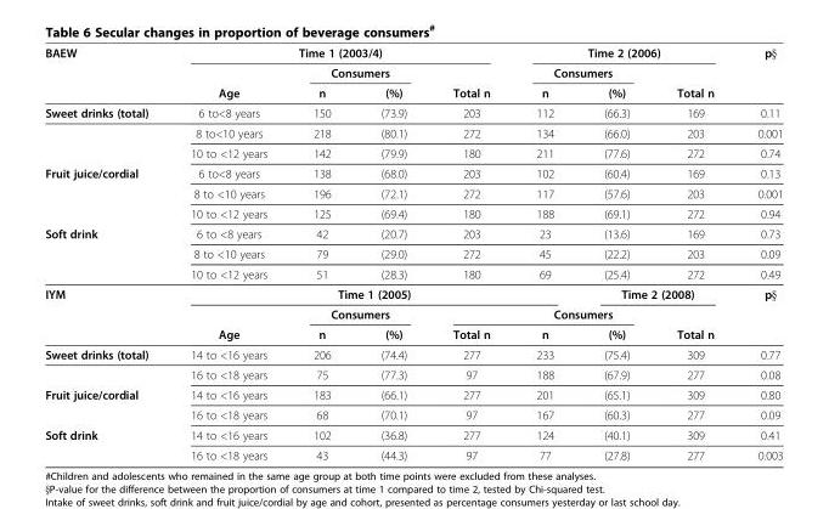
<table><thead><tr><td rowspan="3">BAEW</td><td colspan="4">Time 1 (2003/4)</td><td colspan="3">Time 2 (2006)</td><td rowspan="3">p§</td></tr><tr><td rowspan="2">Age</td><td colspan="2">Consumers</td><td rowspan="2">Total n</td><td colspan="2">Consumers</td><td rowspan="2">Total n</td></tr><tr><td>n</td><td>(%)</td><td>n</td><td>(%)</td></tr></thead><tbody><tr><td rowspan="3">Sweet drinks (total)</td><td>6 to&lt;8 years</td><td>150</td><td>(73.9)</td><td>203</td><td>112</td><td>(66.3)</td><td>169</td><td>0.11</td></tr><tr><td>8 to&lt;10 years</td><td>218</td><td>(80.1)</td><td>272</td><td>134</td><td>(66.0)</td><td>203</td><td>0.001</td></tr><tr><td>10 to &lt;12 years</td><td>142</td><td>(79.9)</td><td>180</td><td>211</td><td>(77.6)</td><td>272</td><td>0.74</td></tr><tr><td rowspan="3">Fruit juice/cordial</td><td>6 to&lt;8 years</td><td>138</td><td>(68.0)</td><td>203</td><td>102</td><td>(60.4)</td><td>169</td><td>0.13</td></tr><tr><td>8 to &lt;10 years</td><td>196</td><td>(72.1)</td><td>272</td><td>117</td><td>(57.6)</td><td>203</td><td>0.001</td></tr><tr><td>10 to &lt;12 years</td><td>125</td><td>(69.4)</td><td>180</td><td>188</td><td>(69.1)</td><td>272</td><td>0.94</td></tr><tr><td rowspan="3">Soft drink</td><td>6 to &lt;8 years</td><td>42</td><td>(20.7)</td><td>203</td><td>23</td><td>(13.6)</td><td>169</td><td>0.73</td></tr><tr><td>8 to &lt;10 years</td><td>79</td><td>(29.0)</td><td>272</td><td>45</td><td>(22.2)</td><td>203</td><td>0.09</td></tr><tr><td>10 to &lt;12 years</td><td>51</td><td>(28.3)</td><td>180</td><td>69</td><td>(25.4)</td><td>272</td><td>0.49</td></tr><tr><td rowspan="3">IYM</td><td colspan="5">Time 1 (2005)</td><td colspan="2">Time 2 (2008)</td><td>p§</td></tr><tr><td></td><td colspan="2">Consumers</td><td></td><td colspan="2">Consumers</td><td></td><td></td></tr><tr><td>Age</td><td>n</td><td>(%)</td><td>Total n</td><td>n</td><td>(%)</td><td>Total n</td><td></td></tr><tr><td rowspan="2">Sweet drinks (total)</td><td>14 to &lt;16 years</td><td>206</td><td>(74.4)</td><td>277</td><td>233</td><td>(75.4)</td><td>309</td><td>0.77</td></tr><tr><td>16 to &lt;18 years</td><td>75</td><td>(77.3)</td><td>97</td><td>188</td><td>(67.9)</td><td>277</td><td>0.08</td></tr><tr><td rowspan="2">Fruit juice/cordial</td><td>14 to &lt;16 years</td><td>183</td><td>(66.1)</td><td>277</td><td>201</td><td>(65.1)</td><td>309</td><td>0.80</td></tr><tr><td>16 to &lt;18 years</td><td>68</td><td>(70.1)</td><td>97</td><td>167</td><td>(60.3)</td><td>277</td><td>0.09</td></tr><tr><td rowspan="2">Soft drink</td><td>14 to &lt;16 years</td><td>102</td><td>(36.8)</td><td>277</td><td>124</td><td>(40.1)</td><td>309</td><td>0.41</td></tr><tr><td>16 to &lt;18 years</td><td>43</td><td>(44.3)</td><td>97</td><td>77</td><td>(27.8)</td><td>277</td><td>0.003</td></tr></tbody></table>